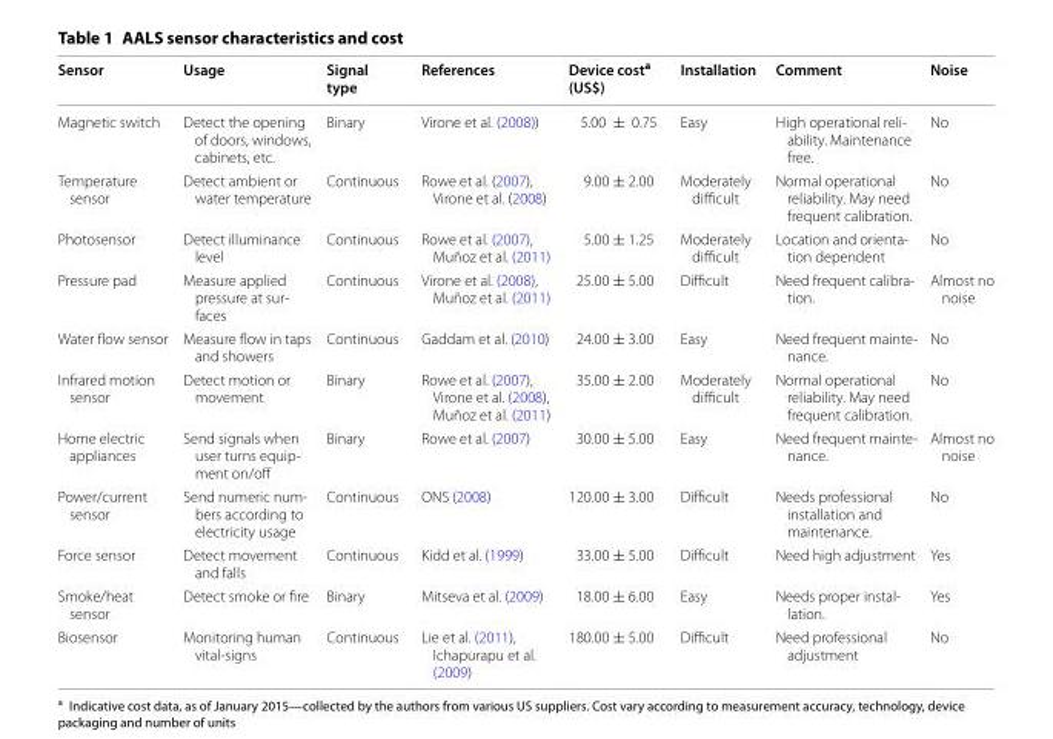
<table><thead><tr><td>Sensor</td><td>Usage</td><td>Signal type</td><td>References</td><td>Device cost<sup>a</sup> (US$)</td><td>Installation</td><td>Comment</td><td>Noise</td></tr></thead><tbody><tr><td>Magnetic switch</td><td>Detect the opening of doors, windows, cabinets, etc.</td><td>Binary</td><td>Virone et al. (2008))</td><td>5.00 ± 0.75</td><td>Easy</td><td>High operational reli‑ ability. Maintenance free.</td><td>No</td></tr><tr><td>Temperature sensor</td><td>Detect ambient or water temperature</td><td>Continuous</td><td>Rowe et al. (2007), Virone et al. (2008)</td><td>9.00 ± 2.00</td><td>Moderately difficult</td><td>Normal operational reliability. May need frequent calibration.</td><td>No</td></tr><tr><td>Photosensor</td><td>Detect illuminance level</td><td>Continuous</td><td>Rowe et al. (2007), Muñoz et al. (2011)</td><td>5.00 ± 1.25</td><td>Moderately difficult</td><td>Location and orienta‑ tion dependent</td><td>No</td></tr><tr><td>Pressure pad</td><td>Measure applied pressure at sur‑ faces</td><td>Continuous</td><td>Virone et al. (2008), Muñoz et al. (2011)</td><td>25.00 ± 5.00</td><td>Difficult</td><td>Need frequent calibra‑ tion.</td><td>Almost no noise</td></tr><tr><td>Water flow sensor</td><td>Measure flow in taps and showers</td><td>Continuous</td><td>Gaddam et al. (2010)</td><td>24.00 ± 3.00</td><td>Easy</td><td>Need frequent mainte‑ nance.</td><td>No</td></tr><tr><td>Infrared motion sensor</td><td>Detect motion or movement</td><td>Binary</td><td>Rowe et al. (2007), Virone et al. (2008), Muñoz et al. (2011)</td><td>35.00 ± 2.00</td><td>Moderately difficult</td><td>Normal operational reliability. May need frequent calibration.</td><td>No</td></tr><tr><td>Home electric appliances</td><td>Send signals when user turns equip‑ ment on/off</td><td>Binary</td><td>Rowe et al. (2007)</td><td>30.00 ± 5.00</td><td>Easy</td><td>Need frequent mainte‑ nance.</td><td>Almost no noise</td></tr><tr><td>Power/current sensor</td><td>Send numeric num‑ bers according to electricity usage</td><td>Continuous</td><td>ONS (2008)</td><td>120.00 ± 3.00</td><td>Difficult</td><td>Needs professional installation and maintenance.</td><td>No</td></tr><tr><td>Force sensor</td><td>Detect movement and falls</td><td>Continuous</td><td>Kidd et al. (1999)</td><td>33.00 ± 5.00</td><td>Difficult</td><td>Need high adjustment</td><td>Yes</td></tr><tr><td>Smoke/heat sensor</td><td>Detect smoke or fire</td><td>Binary</td><td>Mitseva et al. (2009)</td><td>18.00 ± 6.00</td><td>Easy</td><td>Needs proper instal‑ lation.</td><td>Yes</td></tr><tr><td>Biosensor</td><td>Monitoring human vital‑signs</td><td>Continuous</td><td>Lie et al. (2011), Ichapurapu et al. (2009)</td><td>180.00 ± 5.00</td><td>Difficult</td><td>Need professional adjustment</td><td>No</td></tr></tbody></table>